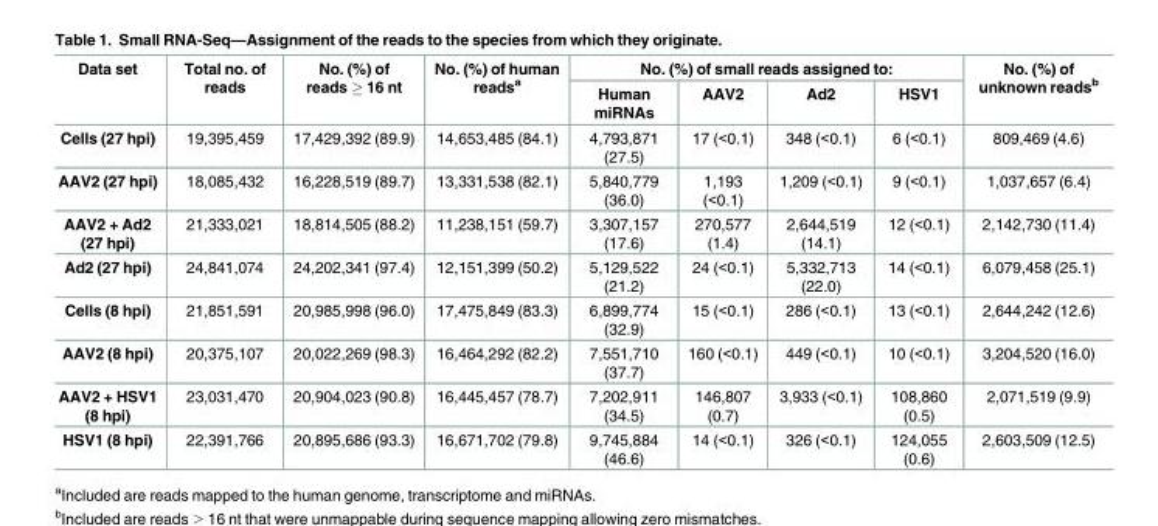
<table><thead><tr><td rowspan="2">Data set</td><td rowspan="2">Total no. of reads</td><td rowspan="2">No. (%) of reads ≥ 16 nt</td><td rowspan="2">No. (%) of human reads<sup>a</sup></td><td colspan="4">No. (%) of small reads assigned to:</td><td rowspan="2">No. (%) of unknown reads<sup>b</sup></td></tr><tr><td>Human miRNAs</td><td>AAV2</td><td>Ad2</td><td>HSV1</td></tr></thead><tbody><tr><td>Cells (27 hpi)</td><td>19,395,459</td><td>17,429,392 (89.9)</td><td>14,653,485 (84.1)</td><td>4,793,871 (27.5)</td><td>17 (&lt;0.1)</td><td>348 (&lt;0.1)</td><td>6 (&lt;0.1)</td><td>809,469 (4.6)</td></tr><tr><td>AAV2 (27 hpi)</td><td>18,085,432</td><td>16,228,519 (89.7)</td><td>13,331,538 (82.1)</td><td>5,840,779 (36.0)</td><td>1,193 (&lt;0.1)</td><td>1,209 (&lt;0.1)</td><td>9 (&lt;0.1)</td><td>1,037,657 (6.4)</td></tr><tr><td>AAV2 + Ad2 (27 hpi)</td><td>21,333,021</td><td>18,814,505 (88.2)</td><td>11,238,151 (59.7)</td><td>3,307,157 (17.6)</td><td>270,577 (1.4)</td><td>2,644,519 (14.1)</td><td>12 (&lt;0.1)</td><td>2,142,730 (11.4)</td></tr><tr><td>Ad2 (27 hpi)</td><td>24,841,074</td><td>24,202,341 (97.4)</td><td>12,151,399 (50.2)</td><td>5,129,522 (21.2)</td><td>24 (&lt;0.1)</td><td>5,332,713 (22.0)</td><td>14 (&lt;0.1)</td><td>6,079,458 (25.1)</td></tr><tr><td>Cells (8 hpi)</td><td>21,851,591</td><td>20,985,998 (96.0)</td><td>17,475,849 (83.3)</td><td>6,899,774 (32.9)</td><td>15 (&lt;0.1)</td><td>286 (&lt;0.1)</td><td>13 (&lt;0.1)</td><td>2,644,242 (12.6)</td></tr><tr><td>AAV2 (8 hpi)</td><td>20,375,107</td><td>20,022,269 (98.3)</td><td>16,464,292 (82.2)</td><td>7,551,710 (37.7)</td><td>160 (&lt;0.1)</td><td>449 (&lt;0.1)</td><td>10 (&lt;0.1)</td><td>3,204,520 (16.0)</td></tr><tr><td>AAV2 + HSV1 (8 hpi)</td><td>23,031,470</td><td>20,904,023 (90.8)</td><td>16,445,457 (78.7)</td><td>7,202,911 (34.5)</td><td>146,807 (0.7)</td><td>3,933 (&lt;0.1)</td><td>108,860 (0.5)</td><td>2,071,519 (9.9)</td></tr><tr><td>HSV1 (8 hpi)</td><td>22,391,766</td><td>20,895,686 (93.3)</td><td>16,671,702 (79.8)</td><td>9,745,884 (46.6)</td><td>14 (&lt;0.1)</td><td>326 (&lt;0.1)</td><td>124,055 (0.6)</td><td>2,603,509 (12.5)</td></tr></tbody></table>